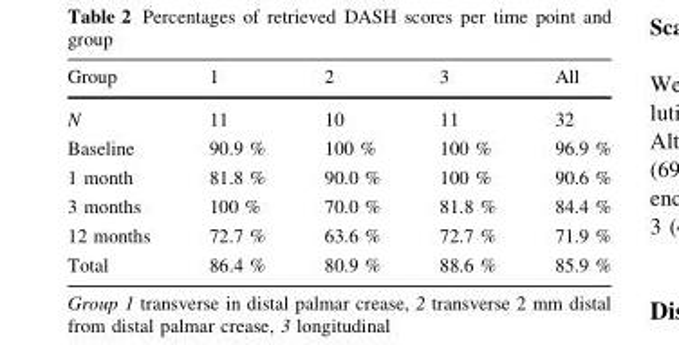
<table><thead><tr><td>Group</td><td>1</td><td>2</td><td>3</td><td>All</td></tr></thead><tbody><tr><td>N</td><td>11</td><td>10</td><td>11</td><td>32</td></tr><tr><td>Baseline</td><td>90.9 %</td><td>100 %</td><td>100 %</td><td>96.9 %</td></tr><tr><td>1 month</td><td>81.8 %</td><td>90.0 %</td><td>100 %</td><td>90.6 %</td></tr><tr><td>3 months</td><td>100 %</td><td>70.0 %</td><td>81.8 %</td><td>84.4 %</td></tr><tr><td>12 months</td><td>72.7 %</td><td>63.6 %</td><td>72.7 %</td><td>71.9 %</td></tr><tr><td>Total</td><td>86.4 %</td><td>80.9 %</td><td>88.6 %</td><td>85.9 %</td></tr></tbody></table>